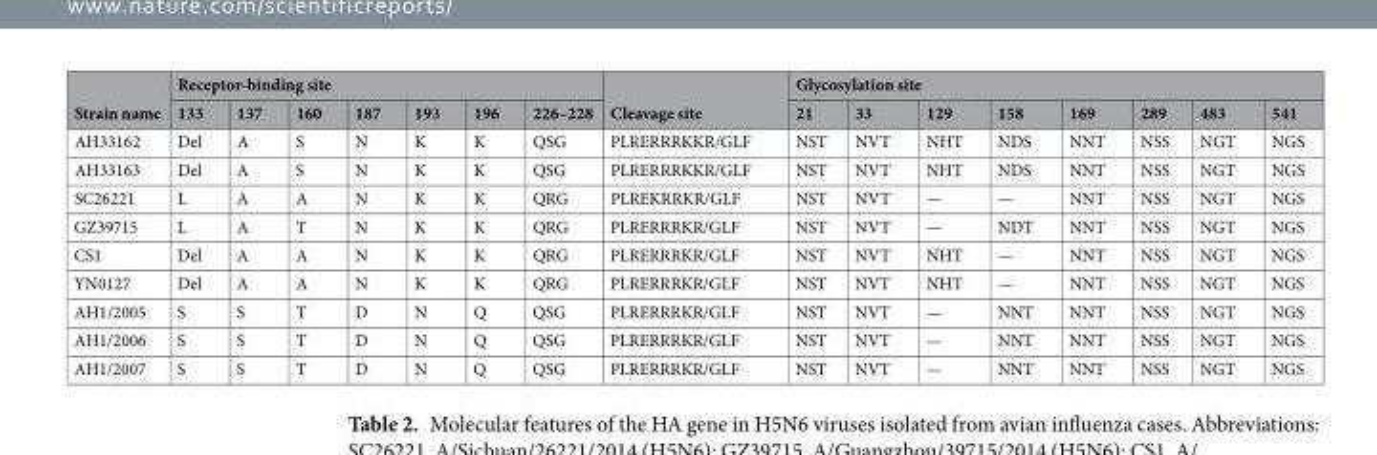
<table><thead><tr><td rowspan="2">Strain name</td><td colspan="7">Receptor-binding site</td><td rowspan="2">Cleavage site</td><td colspan="8">Glycosylation site</td></tr><tr><td>133</td><td>137</td><td>160</td><td>187</td><td>193</td><td>196</td><td>226–228</td><td>21</td><td>33</td><td>129</td><td>158</td><td>169</td><td>289</td><td>483</td><td>541</td></tr></thead><tbody><tr><td>AH33162</td><td>Del</td><td>A</td><td>S</td><td>N</td><td>K</td><td>K</td><td>QSG</td><td>PLRERRRKKR/GLF</td><td>NST</td><td>NVT</td><td>NHT</td><td>NDS</td><td>NNT</td><td>NSS</td><td>NGT</td><td>NGS</td></tr><tr><td>AH33163</td><td>Del</td><td>A</td><td>S</td><td>N</td><td>K</td><td>K</td><td>QSG</td><td>PLRERRRKKR/GLF</td><td>NST</td><td>NVT</td><td>NHT</td><td>NDS</td><td>NNT</td><td>NSS</td><td>NGT</td><td>NGS</td></tr><tr><td>SC26221</td><td>L</td><td>A</td><td>A</td><td>N</td><td>K</td><td>K</td><td>QRG</td><td>PLREKRRKR/GLF</td><td>NST</td><td>NVT</td><td>—</td><td>—</td><td>NNT</td><td>NSS</td><td>NGT</td><td>NGS</td></tr><tr><td>GZ39715</td><td>L</td><td>A</td><td>T</td><td>N</td><td>K</td><td>K</td><td>QRG</td><td>PLRERRRKR/GLF</td><td>NST</td><td>NVT</td><td>—</td><td>NDT</td><td>NNT</td><td>NSS</td><td>NGT</td><td>NGS</td></tr><tr><td>CS1</td><td>Del</td><td>A</td><td>A</td><td>N</td><td>K</td><td>K</td><td>QRG</td><td>PLRERRRKR/GLF</td><td>NST</td><td>NVT</td><td>NHT</td><td>—</td><td>NNT</td><td>NSS</td><td>NGT</td><td>NGS</td></tr><tr><td>YN0127</td><td>Del</td><td>A</td><td>A</td><td>N</td><td>K</td><td>K</td><td>QRG</td><td>PLRERRRKR/GLF</td><td>NST</td><td>NVT</td><td>NHT</td><td>—</td><td>NNT</td><td>NSS</td><td>NGT</td><td>NGS</td></tr><tr><td>AH1/2005</td><td>S</td><td>S</td><td>T</td><td>D</td><td>N</td><td>Q</td><td>QSG</td><td>PLRERRRKR/GLF</td><td>NST</td><td>NVT</td><td>—</td><td>NNT</td><td>NNT</td><td>NSS</td><td>NGT</td><td>NGS</td></tr><tr><td>AH1/2006</td><td>S</td><td>S</td><td>T</td><td>D</td><td>N</td><td>Q</td><td>QSG</td><td>PLRERRRKR/GLF</td><td>NST</td><td>NVT</td><td>—</td><td>NNT</td><td>NNT</td><td>NSS</td><td>NGT</td><td>NGS</td></tr><tr><td>AH1/2007</td><td>S</td><td>S</td><td>T</td><td>D</td><td>N</td><td>Q</td><td>QSG</td><td>PLRERRRKR/GLF</td><td>NST</td><td>NVT</td><td>—</td><td>NNT</td><td>NNT</td><td>NSS</td><td>NGT</td><td>NGS</td></tr></tbody></table>